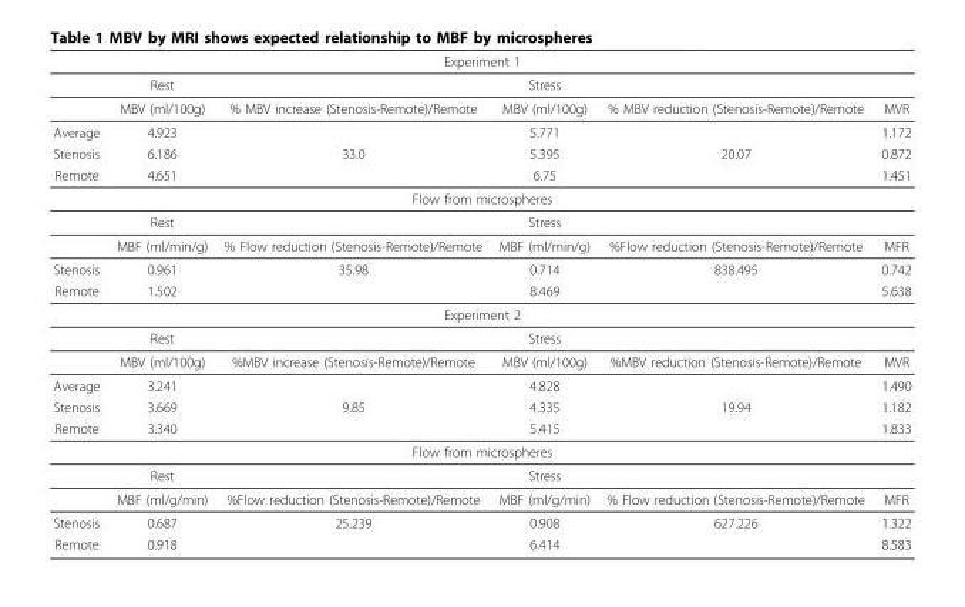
<table><thead><tr><td colspan="6">Experiment 1</td></tr><tr><td></td><td>Rest</td><td></td><td>Stress</td><td></td><td></td></tr></thead><tbody><tr><td></td><td>MBV (ml/100g)</td><td>% MBV increase (Stenosis-Remote)/Remote</td><td>MBV (ml/100g)</td><td>% MBV reduction (Stenosis-Remote)/Remote</td><td>MVR</td></tr><tr><td>Average</td><td>4.923</td><td></td><td>5.771</td><td></td><td>1.172</td></tr><tr><td>Stenosis</td><td>6.186</td><td>33.0</td><td>5.395</td><td>20.07</td><td>0.872</td></tr><tr><td>Remote</td><td>4.651</td><td></td><td>6.75</td><td></td><td>1.451</td></tr><tr><td colspan="6">Flow from microspheres</td></tr><tr><td></td><td>Rest</td><td></td><td>Stress</td><td></td><td></td></tr><tr><td></td><td>MBF (ml/min/g)</td><td>% Flow reduction (Stenosis-Remote)/Remote</td><td>MBF (ml/min/g)</td><td>%Flow reduction (Stenosis-Remote)/Remote</td><td>MFR</td></tr><tr><td>Stenosis</td><td>0.961</td><td>35.98</td><td>0.714</td><td>838.495</td><td>0.742</td></tr><tr><td>Remote</td><td>1.502</td><td></td><td>8.469</td><td></td><td>5.638</td></tr><tr><td colspan="6">Experiment 2</td></tr><tr><td></td><td>Rest</td><td></td><td>Stress</td><td></td><td></td></tr><tr><td></td><td>MBV (ml/100g)</td><td>%MBV increase (Stenosis-Remote)/Remote</td><td>MBV (ml/100g)</td><td>%MBV reduction (Stenosis-Remote)/Remote</td><td>MVR</td></tr><tr><td>Average</td><td>3.241</td><td></td><td>4.828</td><td></td><td>1.490</td></tr><tr><td>Stenosis</td><td>3.669</td><td>9.85</td><td>4.335</td><td>19.94</td><td>1.182</td></tr><tr><td>Remote</td><td>3.340</td><td></td><td>5.415</td><td></td><td>1.833</td></tr><tr><td colspan="6">Flow from microspheres</td></tr><tr><td></td><td>Rest</td><td></td><td>Stress</td><td></td><td></td></tr><tr><td></td><td>MBF (ml/g/min)</td><td>%Flow reduction (Stenosis-Remote)/Remote</td><td>MBF (ml/g/min)</td><td>% Flow reduction (Stenosis-Remote)/Remote</td><td>MFR</td></tr><tr><td>Stenosis</td><td>0.687</td><td>25.239</td><td>0.908</td><td>627.226</td><td>1.322</td></tr><tr><td>Remote</td><td>0.918</td><td></td><td>6.414</td><td></td><td>8.583</td></tr></tbody></table>